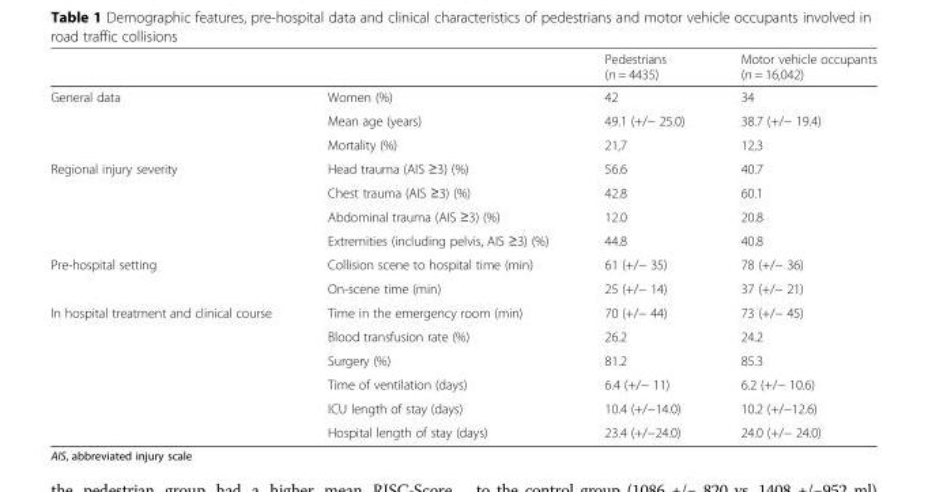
<table><thead><tr><td></td><td></td><td>Pedestrians (n = 4435)</td><td>Motor vehicle occupants (n = 16,042)</td></tr></thead><tbody><tr><td rowspan="3">General data</td><td>Women (%)</td><td>42</td><td>34</td></tr><tr><td>Mean age (years)</td><td>49.1 (+/− 25.0)</td><td>38.7 (+/− 19.4)</td></tr><tr><td>Mortality (%)</td><td>21,7</td><td>12,3</td></tr><tr><td rowspan="4">Regional injury severity</td><td>Head trauma (AIS ≥3) (%)</td><td>56.6</td><td>40.7</td></tr><tr><td>Chest trauma (AIS ≥3) (%)</td><td>42.8</td><td>60.1</td></tr><tr><td>Abdominal trauma (AIS ≥3) (%)</td><td>12.0</td><td>20.8</td></tr><tr><td>Extremities (including pelvis, AIS ≥3) (%)</td><td>44.8</td><td>40.8</td></tr><tr><td rowspan="2">Pre-hospital setting</td><td>Collision scene to hospital time (min)</td><td>61 (+/− 35)</td><td>78 (+/− 36)</td></tr><tr><td>On-scene time (min)</td><td>25 (+/− 14)</td><td>37 (+/− 21)</td></tr><tr><td rowspan="6">In hospital treatment and clinical course</td><td>Time in the emergency room (min)</td><td>70 (+/− 44)</td><td>73 (+/− 45)</td></tr><tr><td>Blood transfusion rate (%)</td><td>26.2</td><td>24.2</td></tr><tr><td>Surgery (%)</td><td>81.2</td><td>85.3</td></tr><tr><td>Time of ventilation (days)</td><td>6.4 (+/− 11)</td><td>6.2 (+/− 10.6)</td></tr><tr><td>ICU length of stay (days)</td><td>10.4 (+/−14.0)</td><td>10.2 (+/−12.6)</td></tr><tr><td>Hospital length of stay (days)</td><td>23.4 (+/−24.0)</td><td>24.0 (+/− 24.0)</td></tr></tbody></table>